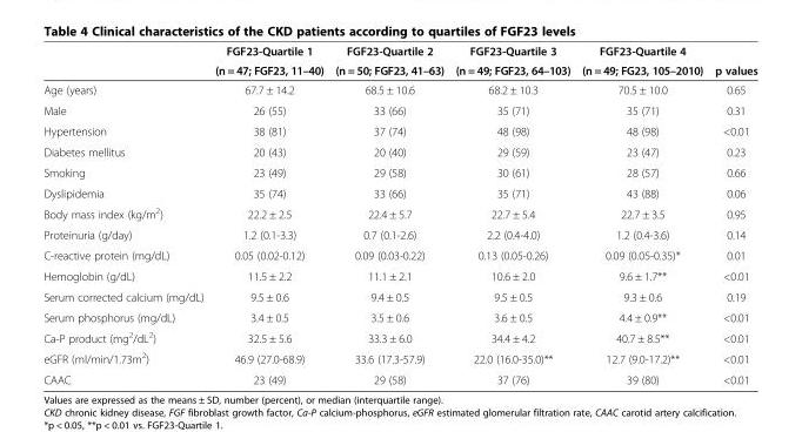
<table><thead><tr><td rowspan="2"></td><td rowspan="2">FGF23-Quartile 1 (n = 47; FGF23, 11–40)</td><td rowspan="2">FGF23-Quartile 2 (n = 50; FGF23, 41–63)</td><td rowspan="2">FGF23-Quartile 3 (n = 49; FGF23, 64–103)</td><td rowspan="2">FGF23-Quartile 4 (n = 49; FG23, 105–2010)</td><td rowspan="2">p values</td></tr><tr></tr></thead><tbody><tr><td>Age (years)</td><td>67.7 ± 14.2</td><td>68.5 ± 10.6</td><td>68.2 ± 10.3</td><td>70.5 ± 10.0</td><td>0.65</td></tr><tr><td>Male</td><td>26 (55)</td><td>33 (66)</td><td>35 (71)</td><td>35 (71)</td><td>0.31</td></tr><tr><td>Hypertension</td><td>38 (81)</td><td>37 (74)</td><td>48 (98)</td><td>48 (98)</td><td>&lt;0.01</td></tr><tr><td>Diabetes mellitus</td><td>20 (43)</td><td>20 (40)</td><td>29 (59)</td><td>23 (47)</td><td>0.23</td></tr><tr><td>Smoking</td><td>23 (49)</td><td>29 (58)</td><td>30 (61)</td><td>28 (57)</td><td>0.66</td></tr><tr><td>Dyslipidemia</td><td>35 (74)</td><td>33 (66)</td><td>35 (71)</td><td>43 (88)</td><td>0.06</td></tr><tr><td>Body mass index (kg/m<sup>2</sup>)</td><td>22.2 ± 2.5</td><td>22.4 ± 5.7</td><td>22.7 ± 5.4</td><td>22.7 ± 3.5</td><td>0.95</td></tr><tr><td>Proteinuria (g/day)</td><td>1.2 (0.1-3.3)</td><td>0.7 (0.1-2.6)</td><td>2.2 (0.4-4.0)</td><td>1.2 (0.4-3.6)</td><td>0.14</td></tr><tr><td>C-reactive protein (mg/dL)</td><td>0.05 (0.02-0.12)</td><td>0.09 (0.03-0.22)</td><td>0.13 (0.05-0.26)</td><td>0.09 (0.05-0.35)*</td><td>0.01</td></tr><tr><td>Hemoglobin (g/dL)</td><td>11.5 ± 2.2</td><td>11.1 ± 2.1</td><td>10.6 ± 2.0</td><td>9.6 ± 1.7**</td><td>&lt;0.01</td></tr><tr><td>Serum corrected calcium (mg/dL)</td><td>9.5 ± 0.6</td><td>9.4 ± 0.5</td><td>9.5 ± 0.5</td><td>9.3 ± 0.6</td><td>0.19</td></tr><tr><td>Serum phosphorus (mg/dL)</td><td>3.4 ± 0.5</td><td>3.5 ± 0.6</td><td>3.6 ± 0.5</td><td>4.4 ± 0.9**</td><td>&lt;0.01</td></tr><tr><td>Ca-P product (mg<sup>2</sup>/dL<sup>2</sup>)</td><td>32.5 ± 5.6</td><td>33.3 ± 6.0</td><td>34.4 ± 4.2</td><td>40.7 ± 8.5**</td><td>&lt;0.01</td></tr><tr><td>eGFR (ml/min/1.73m<sup>2</sup>)</td><td>46.9 (27.0-68.9)</td><td>33.6 (17.3-57.9)</td><td>22.0 (16.0-35.0)**</td><td>12.7 (9.0-17.2)**</td><td>&lt;0.01</td></tr><tr><td>CAAC</td><td>23 (49)</td><td>29 (58)</td><td>37 (76)</td><td>39 (80)</td><td>&lt;0.01</td></tr></tbody></table>